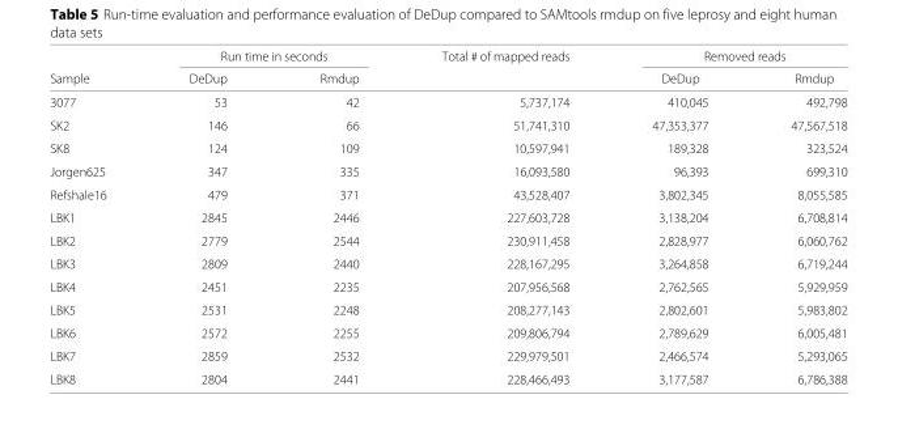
<table><thead><tr><td rowspan="2">Sample</td><td colspan="2">Run time in seconds</td><td rowspan="2">Total # of mapped reads</td><td colspan="2">Removed reads</td></tr><tr><td>DeDup</td><td>Rmdup</td><td>DeDup</td><td>Rmdup</td></tr></thead><tbody><tr><td>3077</td><td>53</td><td>42</td><td>5,737,174</td><td>410,045</td><td>492,798</td></tr><tr><td>SK2</td><td>146</td><td>66</td><td>51,741,310</td><td>47,353,377</td><td>47,567,518</td></tr><tr><td>SK8</td><td>124</td><td>109</td><td>10,597,941</td><td>189,328</td><td>323,524</td></tr><tr><td>Jorgen625</td><td>347</td><td>335</td><td>16,093,580</td><td>96,393</td><td>699,310</td></tr><tr><td>Refshale16</td><td>479</td><td>371</td><td>43,528,407</td><td>3,802,345</td><td>8,055,585</td></tr><tr><td>LBK1</td><td>2845</td><td>2446</td><td>227,603,728</td><td>3,138,204</td><td>6,708,814</td></tr><tr><td>LBK2</td><td>2779</td><td>2544</td><td>230,911,458</td><td>2,828,977</td><td>6,060,762</td></tr><tr><td>LBK3</td><td>2809</td><td>2440</td><td>228,167,295</td><td>3,264,858</td><td>6,719,244</td></tr><tr><td>LBK4</td><td>2451</td><td>2235</td><td>207,956,568</td><td>2,762,565</td><td>5,929,959</td></tr><tr><td>LBK5</td><td>2531</td><td>2248</td><td>208,277,143</td><td>2,802,601</td><td>5,983,802</td></tr><tr><td>LBK6</td><td>2572</td><td>2255</td><td>209,806,794</td><td>2,789,629</td><td>6,005,481</td></tr><tr><td>LBK7</td><td>2859</td><td>2532</td><td>229,979,501</td><td>2,466,574</td><td>5,293,065</td></tr><tr><td>LBK8</td><td>2804</td><td>2441</td><td>228,466,493</td><td>3,177,587</td><td>6,786,388</td></tr></tbody></table>